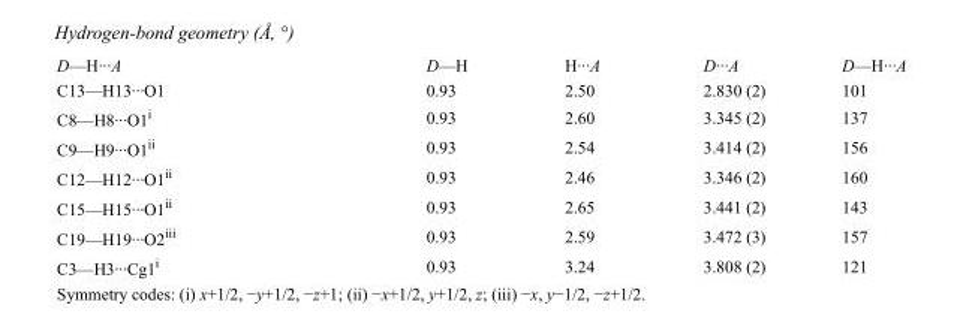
<table><tbody><tr><td>D—H···A</td><td>D—H</td><td>H···A</td><td>D···A</td><td>D—H···A</td></tr><tr><td>C13—H13···O1</td><td>0.93</td><td>2.50</td><td>2.830 (2)</td><td>101</td></tr><tr><td>C8—H8···O1<sup>i</sup></td><td>0.93</td><td>2.60</td><td>3.345 (2)</td><td>137</td></tr><tr><td>C9—H9···O1<sup>ii</sup></td><td>0.93</td><td>2.54</td><td>3.414 (2)</td><td>156</td></tr><tr><td>C12—H12···O1<sup>ii</sup></td><td>0.93</td><td>2.46</td><td>3.346 (2)</td><td>160</td></tr><tr><td>C15—H15···O1<sup>ii</sup></td><td>0.93</td><td>2.65</td><td>3.441 (2)</td><td>143</td></tr><tr><td>C19—H19···O2<sup>iii</sup></td><td>0.93</td><td>2.59</td><td>3.472 (3)</td><td>157</td></tr><tr><td>C3—H3···Cg1<sup>i</sup></td><td>0.93</td><td>3.24</td><td>3.808 (2)</td><td>121</td></tr></tbody></table>